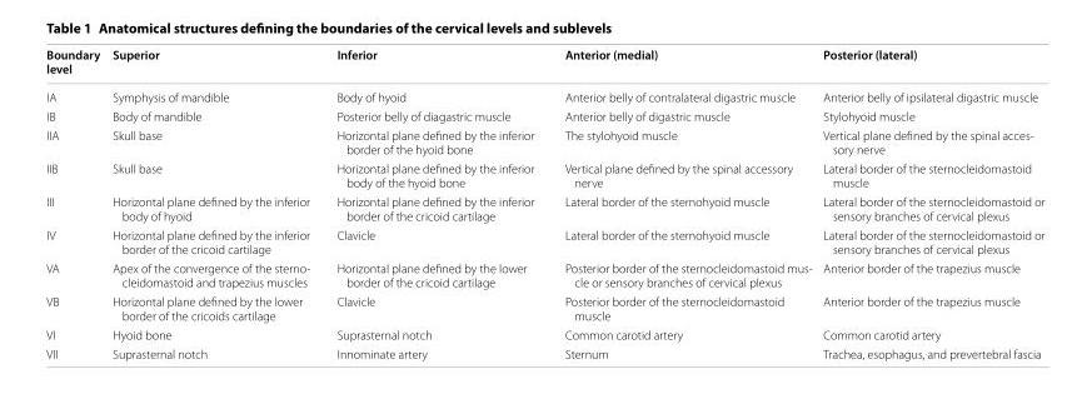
<table><thead><tr><td>Boundary level</td><td>Superior</td><td>Inferior</td><td>Anterior (medial)</td><td>Posterior (lateral)</td></tr></thead><tbody><tr><td>IA</td><td>Symphysis of mandible</td><td>Body of hyoid</td><td>Anterior belly of contralateral digastric muscle</td><td>Anterior belly of ipsilateral digastric muscle</td></tr><tr><td>IB</td><td>Body of mandible</td><td>Posterior belly of diagastric muscle</td><td>Anterior belly of digastric muscle</td><td>Stylohyoid muscle</td></tr><tr><td>IIA</td><td>Skull base</td><td>Horizontal plane defined by the inferior border of the hyoid bone</td><td>The stylohyoid muscle</td><td>Vertical plane defined by the spinal acces‑ sory nerve</td></tr><tr><td>IIB</td><td>Skull base</td><td>Horizontal plane defined by the inferior body of the hyoid bone</td><td>Vertical plane defined by the spinal accessory nerve</td><td>Lateral border of the sternocleidomastoid muscle</td></tr><tr><td>III</td><td>Horizontal plane defined by the inferior body of hyoid</td><td>Horizontal plane defined by the inferior border of the cricoid cartilage</td><td>Lateral border of the sternohyoid muscle</td><td>Lateral border of the sternocleidomastoid or sensory branches of cervical plexus</td></tr><tr><td>IV</td><td>Horizontal plane defined by the inferior border of the cricoid cartilage</td><td>Clavicle</td><td>Lateral border of the sternohyoid muscle</td><td>Lateral border of the sternocleidomastoid or sensory branches of cervical plexus</td></tr><tr><td>VA</td><td>Apex of the convergence of the sterno‑ cleidomastoid and trapezius muscles</td><td>Horizontal plane defined by the lower border of the cricoid cartilage</td><td>Posterior border of the sternocleidomastoid mus‑ cle or sensory branches of cervical plexus</td><td>Anterior border of the trapezius muscle</td></tr><tr><td>VB</td><td>Horizontal plane defined by the lower border of the cricoids cartilage</td><td>Clavicle</td><td>Posterior border of the sternocleidomastoid muscle</td><td>Anterior border of the trapezius muscle</td></tr><tr><td>VI</td><td>Hyoid bone</td><td>Suprasternal notch</td><td>Common carotid artery</td><td>Common carotid artery</td></tr><tr><td>VII</td><td>Suprasternal notch</td><td>Innominate artery</td><td>Sternum</td><td>Trachea, esophagus, and prevertebral fascia</td></tr></tbody></table>